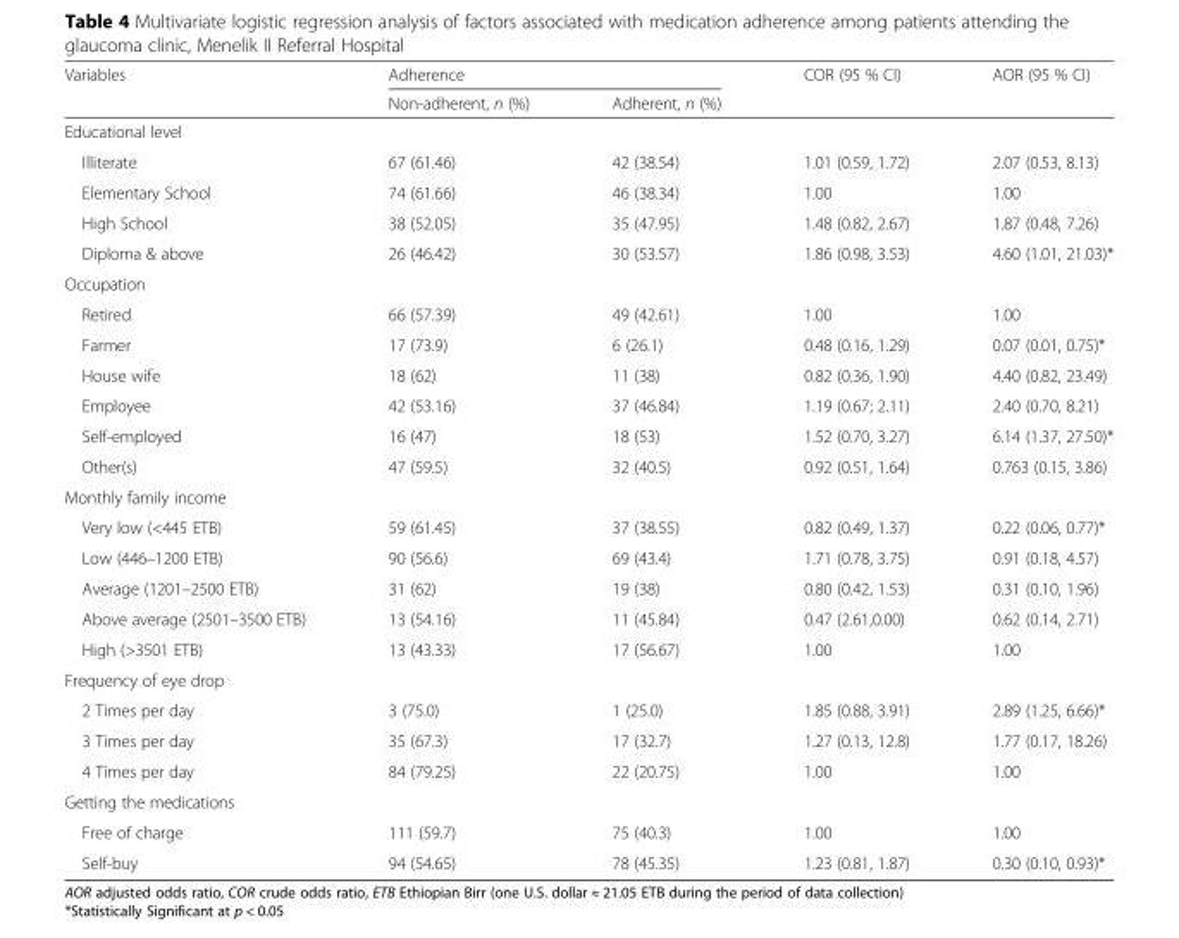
<table><thead><tr><td rowspan="2">Variables</td><td colspan="2">Adherence</td><td rowspan="2">COR (95 % CI)</td><td rowspan="2">AOR (95 % CI)</td></tr><tr><td>Non-adherent, n (%)</td><td>Adherent, n (%)</td></tr></thead><tbody><tr><td colspan="5">Educational level</td></tr><tr><td>Illiterate</td><td>67 (61.46)</td><td>42 (38.54)</td><td>1.01 (0.59, 1.72)</td><td>2.07 (0.53, 8.13)</td></tr><tr><td>Elementary School</td><td>74 (61.66)</td><td>46 (38.34)</td><td>1.00</td><td>1.00</td></tr><tr><td>High School</td><td>38 (52.05)</td><td>35 (47.95)</td><td>1.48 (0.82, 2.67)</td><td>1.87 (0.48, 7.26)</td></tr><tr><td>Diploma &amp; above</td><td>26 (46.42)</td><td>30 (53.57)</td><td>1.86 (0.98, 3.53)</td><td>4.60 (1.01, 21.03)*</td></tr><tr><td colspan="5">Occupation</td></tr><tr><td>Retired</td><td>66 (57.39)</td><td>49 (42.61)</td><td>1.00</td><td>1.00</td></tr><tr><td>Farmer</td><td>17 (73.9)</td><td>6 (26.1)</td><td>0.48 (0.16, 1.29)</td><td>0.07 (0.01, 0.75)*</td></tr><tr><td>House wife</td><td>18 (62)</td><td>11 (38)</td><td>0.82 (0.36, 1.90)</td><td>4.40 (0.82, 23.49)</td></tr><tr><td>Employee</td><td>42 (53.16)</td><td>37 (46.84)</td><td>1.19 (0.67; 2.11)</td><td>2.40 (0.70, 8.21)</td></tr><tr><td>Self-employed</td><td>16 (47)</td><td>18 (53)</td><td>1.52 (0.70, 3.27)</td><td>6.14 (1.37, 27.50)*</td></tr><tr><td>Other(s)</td><td>47 (59.5)</td><td>32 (40.5)</td><td>0.92 (0.51, 1.64)</td><td>0.763 (0.15, 3.86)</td></tr><tr><td colspan="5">Monthly family income</td></tr><tr><td>Very low (&lt;445 ETB)</td><td>59 (61.45)</td><td>37 (38.55)</td><td>0.82 (0.49, 1.37)</td><td>0.22 (0.06, 0.77)*</td></tr><tr><td>Low (446–1200 ETB)</td><td>90 (56.6)</td><td>69 (43.4)</td><td>1.71 (0.78, 3.75)</td><td>0.91 (0.18, 4.57)</td></tr><tr><td>Average (1201–2500 ETB)</td><td>31 (62)</td><td>19 (38)</td><td>0.80 (0.42, 1.53)</td><td>0.31 (0.10, 1.96)</td></tr><tr><td>Above average (2501–3500 ETB)</td><td>13 (54.16)</td><td>11 (45.84)</td><td>0.47 (2.61,0.00)</td><td>0.62 (0.14, 2.71)</td></tr><tr><td>High (&gt;3501 ETB)</td><td>13 (43.33)</td><td>17 (56.67)</td><td>1.00</td><td>1.00</td></tr><tr><td colspan="5">Frequency of eye drop</td></tr><tr><td>2 Times per day</td><td>3 (75.0)</td><td>1 (25.0)</td><td>1.85 (0.88, 3.91)</td><td>2.89 (1.25, 6.66)*</td></tr><tr><td>3 Times per day</td><td>35 (67.3)</td><td>17 (32.7)</td><td>1.27 (0.13, 12.8)</td><td>1.77 (0.17, 18.26)</td></tr><tr><td>4 Times per day</td><td>84 (79.25)</td><td>22 (20.75)</td><td>1.00</td><td>1.00</td></tr><tr><td colspan="5">Getting the medications</td></tr><tr><td>Free of charge</td><td>111 (59.7)</td><td>75 (40.3)</td><td>1.00</td><td>1.00</td></tr><tr><td>Self-buy</td><td>94 (54.65)</td><td>78 (45.35)</td><td>1.23 (0.81, 1.87)</td><td>0.30 (0.10, 0.93)*</td></tr></tbody></table>